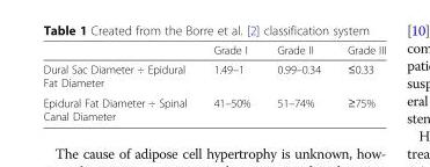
<table><thead><tr><td></td><td>Grade I</td><td>Grade II</td><td>Grade III</td></tr></thead><tbody><tr><td>Dural Sac Diameter ÷ Epidural Fat Diameter</td><td>1.49–1</td><td>0.99–0.34</td><td>≤0.33</td></tr><tr><td>Epidural Fat Diameter ÷ Spinal Canal Diameter</td><td>41–50%</td><td>51–74%</td><td>≥75%</td></tr></tbody></table>